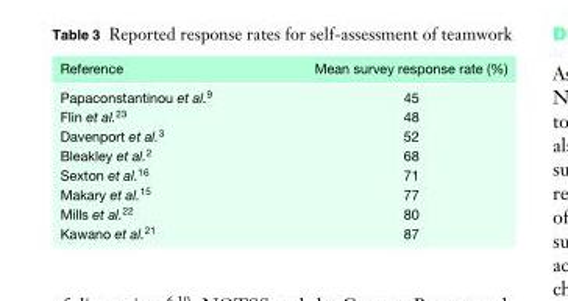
<table><thead><tr><td>Reference</td><td>Mean survey response rate (%)</td></tr></thead><tbody><tr><td>Papaconstantinou et al.<sup>9</sup></td><td>45</td></tr><tr><td>Flin et al.<sup>23</sup></td><td>48</td></tr><tr><td>Davenport et al.<sup>3</sup></td><td>52</td></tr><tr><td>Bleakley et al.<sup>2</sup></td><td>68</td></tr><tr><td>Sexton et al.<sup>16</sup></td><td>71</td></tr><tr><td>Makary et al.<sup>15</sup></td><td>77</td></tr><tr><td>Mills et al.<sup>22</sup></td><td>80</td></tr><tr><td>Kawano et al.<sup>21</sup></td><td>87</td></tr></tbody></table>